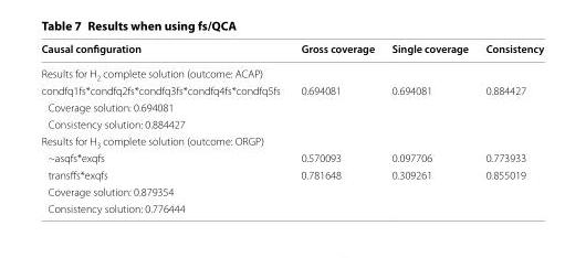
<table><thead><tr><td>Causal configuration</td><td>Gross coverage</td><td>Single coverage</td><td>Consistency</td></tr></thead><tbody><tr><td colspan="4">Results for H<sub>2</sub> complete solution (outcome: ACAP)</td></tr><tr><td>condfq1fs*condfq2fs*condfq3fs*condfq4fs*condfq5fs</td><td>0.694081</td><td>0.694081</td><td>0.884427</td></tr><tr><td colspan="4">Coverage solution: 0.694081</td></tr><tr><td colspan="4">Consistency solution: 0.884427</td></tr><tr><td colspan="4">Results for H<sub>3</sub> complete solution (outcome: ORGP)</td></tr><tr><td>~asqfs*exqfs</td><td>0.570093</td><td>0.097706</td><td>0.773933</td></tr><tr><td>transffs*exqfs</td><td>0.781648</td><td>0.309261</td><td>0.855019</td></tr><tr><td colspan="4">Coverage solution: 0.879354</td></tr><tr><td>Consistency solution: 0.776444</td><td></td><td></td><td></td></tr></tbody></table>